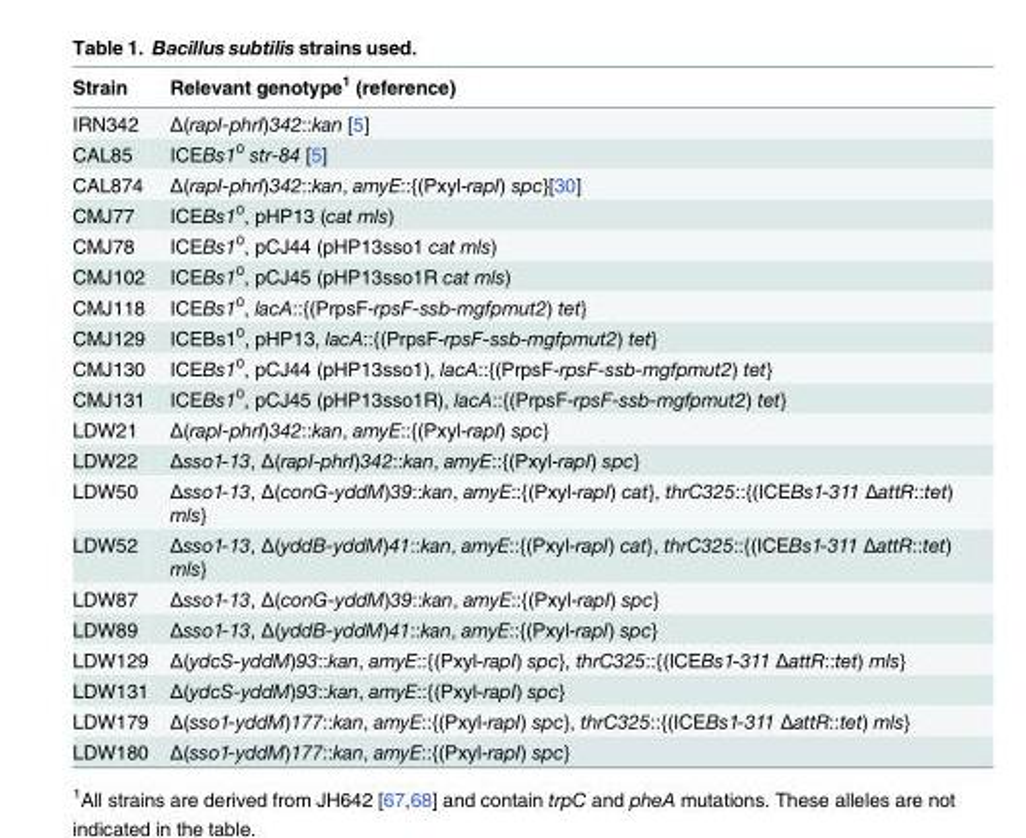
<table><thead><tr><td>Strain</td><td>Relevant genotype<sup>1</sup> (reference)</td></tr></thead><tbody><tr><td>IRN342</td><td>Δ(rapI-phrI)342::kan [5]</td></tr><tr><td>CAL85</td><td>ICEBs1<sup>0</sup> str-84 [5]</td></tr><tr><td>CAL874</td><td>Δ(rapI-phrI)342::kan, amyE::{(Pxyl-rapI) spc}[30]</td></tr><tr><td>CMJ77</td><td>ICEBs1<sup>0</sup>, pHP13 (cat mls)</td></tr><tr><td>CMJ78</td><td>ICEBs1<sup>0</sup>, pCJ44 (pHP13sso1 cat mls)</td></tr><tr><td>CMJ102</td><td>ICEBs1<sup>0</sup>, pCJ45 (pHP13sso1R cat mls)</td></tr><tr><td>CMJ118</td><td>ICEBs1<sup>0</sup>, lacA::{(PrpsF-rpsF-ssb-mgfpmut2) tet}</td></tr><tr><td>CMJ129</td><td>ICEBs1<sup>0</sup>, pHP13, lacA::{(PrpsF-rpsF-ssb-mgfpmut2) tet}</td></tr><tr><td>CMJ130</td><td>ICEBs1<sup>0</sup>, pCJ44 (pHP13sso1), lacA::{(PrpsF-rpsF-ssb-mgfpmut2) tet}</td></tr><tr><td>CMJ131</td><td>ICEBs1<sup>0</sup>, pCJ45 (pHP13sso1R), lacA::{(PrpsF-rpsF-ssb-mgfpmut2) tet}</td></tr><tr><td>LDW21</td><td>Δ(rapI-phrI)342::kan, amyE::{(Pxyl-rapI) spc}</td></tr><tr><td>LDW22</td><td>Δsso1-13, Δ(rapI-phrI)342::kan, amyE::{(Pxyl-rapI) spc}</td></tr><tr><td>LDW50</td><td>Δsso1-13, Δ(conG-yddM)39::kan, amyE::{(Pxyl-rapI) cat}, thrC325::{(ICEBs1-311 ΔattR::tet) mls}</td></tr><tr><td>LDW52</td><td>Δsso1-13, Δ(yddB-yddM)41::kan, amyE::{(Pxyl-rapI) cat}, thrC325::{(ICEBs1-311 ΔattR::tet) mls}</td></tr><tr><td>LDW87</td><td>Δsso1-13, Δ(conG-yddM)39::kan, amyE::{(Pxyl-rapI) spc}</td></tr><tr><td>LDW89</td><td>Δsso1-13, Δ(yddB-yddM)41::kan, amyE::{(Pxyl-rapI) spc}</td></tr><tr><td>LDW129</td><td>Δ(ydcS-yddM)93::kan, amyE::{(Pxyl-rapI) spc}, thrC325::{(ICEBs1-311 ΔattR::tet) mls}</td></tr><tr><td>LDW131</td><td>Δ(ydcS-yddM)93::kan, amyE::{(Pxyl-rapI) spc}</td></tr><tr><td>LDW179</td><td>Δ(sso1-yddM)177::kan, amyE::{(Pxyl-rapI) spc}, thrC325::{(ICEBs1-311 ΔattR::tet) mls}</td></tr><tr><td>LDW180</td><td>Δ(sso1-yddM)177::kan, amyE::{(Pxyl-rapI) spc}</td></tr></tbody></table>